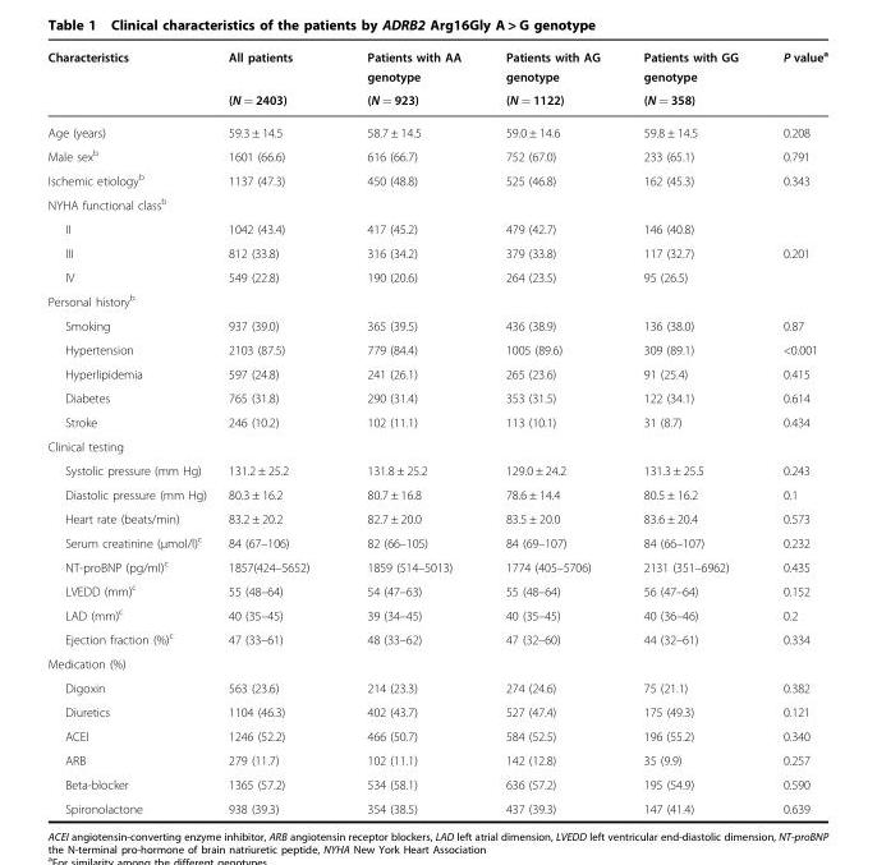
<table><thead><tr><td rowspan="2">Characteristics</td><td rowspan="2">All patients (N = 2403)</td><td rowspan="2">Patients with AA genotype (N = 923)</td><td rowspan="2">Patients with AG genotype (N = 1122)</td><td rowspan="2">Patients with GG genotype (N = 358)</td><td rowspan="2">P value<sup>a</sup></td></tr><tr></tr></thead><tbody><tr><td>Age (years)</td><td>59.3 ± 14.5</td><td>58.7 ± 14.5</td><td>59.0 ± 14.6</td><td>59.8 ± 14.5</td><td>0.208</td></tr><tr><td>Male sex<sup>b</sup></td><td>1601 (66.6)</td><td>616 (66.7)</td><td>752 (67.0)</td><td>233 (65.1)</td><td>0.791</td></tr><tr><td>Ischemic etiology<sup>b</sup></td><td>1137 (47.3)</td><td>450 (48.8)</td><td>525 (46.8)</td><td>162 (45.3)</td><td>0.343</td></tr><tr><td colspan="6">NYHA functional class<sup>b</sup></td></tr><tr><td>II</td><td>1042 (43.4)</td><td>417 (45.2)</td><td>479 (42.7)</td><td>146 (40.8)</td><td></td></tr><tr><td>III</td><td>812 (33.8)</td><td>316 (34.2)</td><td>379 (33.8)</td><td>117 (32.7)</td><td>0.201</td></tr><tr><td>IV</td><td>549 (22.8)</td><td>190 (20.6)</td><td>264 (23.5)</td><td>95 (26.5)</td><td></td></tr><tr><td colspan="6">Personal history<sup>b</sup></td></tr><tr><td>Smoking</td><td>937 (39.0)</td><td>365 (39.5)</td><td>436 (38.9)</td><td>136 (38.0)</td><td>0.87</td></tr><tr><td>Hypertension</td><td>2103 (87.5)</td><td>779 (84.4)</td><td>1005 (89.6)</td><td>309 (89.1)</td><td>&lt;0.001</td></tr><tr><td>Hyperlipidemia</td><td>597 (24.8)</td><td>241 (26.1)</td><td>265 (23.6)</td><td>91 (25.4)</td><td>0.415</td></tr><tr><td>Diabetes</td><td>765 (31.8)</td><td>290 (31.4)</td><td>353 (31.5)</td><td>122 (34.1)</td><td>0.614</td></tr><tr><td>Stroke</td><td>246 (10.2)</td><td>102 (11.1)</td><td>113 (10.1)</td><td>31 (8.7)</td><td>0.434</td></tr><tr><td colspan="6">Clinical testing</td></tr><tr><td>Systolic pressure (mm Hg)</td><td>131.2 ± 25.2</td><td>131.8 ± 25.2</td><td>129.0 ± 24.2</td><td>131.3 ± 25.5</td><td>0.243</td></tr><tr><td>Diastolic pressure (mm Hg)</td><td>80.3 ± 16.2</td><td>80.7 ± 16.8</td><td>78.6 ± 14.4</td><td>80.5 ± 16.2</td><td>0.1</td></tr><tr><td>Heart rate (beats/min)</td><td>83.2 ± 20.2</td><td>82.7 ± 20.0</td><td>83.5 ± 20.0</td><td>83.6 ± 20.4</td><td>0.573</td></tr><tr><td>Serum creatinine (µmol/l)<sup>c</sup></td><td>84 (67–106)</td><td>82 (66–105)</td><td>84 (69–107)</td><td>84 (66–107)</td><td>0.232</td></tr><tr><td>NT-proBNP (pg/ml)<sup>c</sup></td><td>1857(424–5652)</td><td>1859 (514–5013)</td><td>1774 (405–5706)</td><td>2131 (351–6962)</td><td>0.435</td></tr><tr><td>LVEDD (mm)<sup>c</sup></td><td>55 (48–64)</td><td>54 (47–63)</td><td>55 (48–64)</td><td>56 (47–64)</td><td>0.152</td></tr><tr><td>LAD (mm)<sup>c</sup></td><td>40 (35–45)</td><td>39 (34–45)</td><td>40 (35–45)</td><td>40 (36–46)</td><td>0.2</td></tr><tr><td>Ejection fraction (%)<sup>c</sup></td><td>47 (33–61)</td><td>48 (33–62)</td><td>47 (32–60)</td><td>44 (32–61)</td><td>0.334</td></tr><tr><td colspan="6">Medication (%)</td></tr><tr><td>Digoxin</td><td>563 (23.6)</td><td>214 (23.3)</td><td>274 (24.6)</td><td>75 (21.1)</td><td>0.382</td></tr><tr><td>Diuretics</td><td>1104 (46.3)</td><td>402 (43.7)</td><td>527 (47.4)</td><td>175 (49.3)</td><td>0.121</td></tr><tr><td>ACEI</td><td>1246 (52.2)</td><td>466 (50.7)</td><td>584 (52.5)</td><td>196 (55.2)</td><td>0.340</td></tr><tr><td>ARB</td><td>279 (11.7)</td><td>102 (11.1)</td><td>142 (12.8)</td><td>35 (9.9)</td><td>0.257</td></tr><tr><td>Beta-blocker</td><td>1365 (57.2)</td><td>534 (58.1)</td><td>636 (57.2)</td><td>195 (54.9)</td><td>0.590</td></tr><tr><td>Spironolactone</td><td>938 (39.3)</td><td>354 (38.5)</td><td>437 (39.3)</td><td>147 (41.4)</td><td>0.639</td></tr></tbody></table>